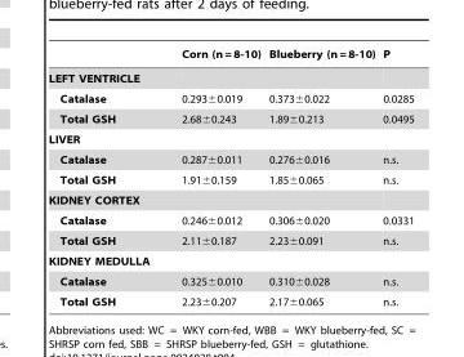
<table><thead><tr><td></td><td>Corn (n = 8-10)</td><td>Blueberry (n = 8-10)</td><td>P</td></tr></thead><tbody><tr><td colspan="4">LEFT VENTRICLE</td></tr><tr><td>Catalase</td><td>0.293±0.019</td><td>0.373±0.022</td><td>0.0285</td></tr><tr><td>Total GSH</td><td>2.68±0.243</td><td>1.89±0.213</td><td>0.0495</td></tr><tr><td colspan="4">LIVER</td></tr><tr><td>Catalase</td><td>0.287±0.011</td><td>0.276±0.016</td><td>n.s.</td></tr><tr><td>Total GSH</td><td>1.91±0.159</td><td>1.85±0.065</td><td>n.s.</td></tr><tr><td colspan="4">KIDNEY CORTEX</td></tr><tr><td>Catalase</td><td>0.246±0.012</td><td>0.306±0.020</td><td>0.0331</td></tr><tr><td>Total GSH</td><td>2.11±0.187</td><td>2.23±0.091</td><td>n.s.</td></tr><tr><td colspan="4">KIDNEY MEDULLA</td></tr><tr><td>Catalase</td><td>0.325±0.010</td><td>0.310±0.028</td><td>n.s.</td></tr><tr><td>Total GSH</td><td>2.23±0.207</td><td>2.17±0.065</td><td>n.s.</td></tr></tbody></table>